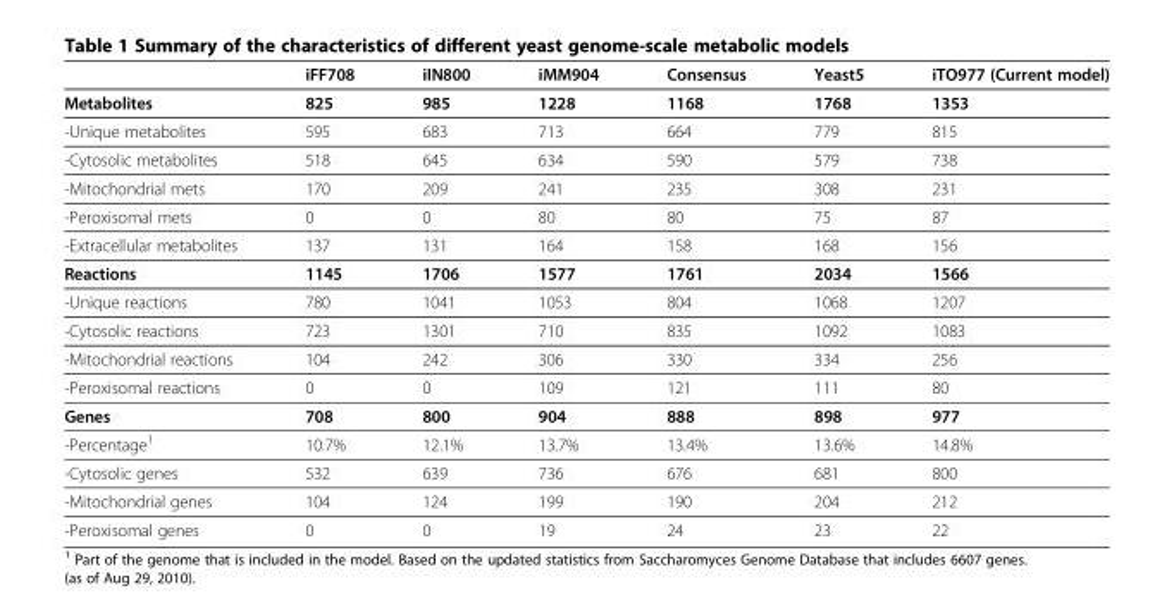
<table><thead><tr><td></td><td>iFF708</td><td>iIN800</td><td>iMM904</td><td>Consensus</td><td>Yeast5</td><td>iTO977 (Current model)</td></tr></thead><tbody><tr><td>Metabolites</td><td>825</td><td>985</td><td>1228</td><td>1168</td><td>1768</td><td>1353</td></tr><tr><td>-Unique metabolites</td><td>595</td><td>683</td><td>713</td><td>664</td><td>779</td><td>815</td></tr><tr><td>-Cytosolic metabolites</td><td>518</td><td>645</td><td>634</td><td>590</td><td>579</td><td>738</td></tr><tr><td>-Mitochondrial mets</td><td>170</td><td>209</td><td>241</td><td>235</td><td>308</td><td>231</td></tr><tr><td>-Peroxisomal mets</td><td>0</td><td>0</td><td>80</td><td>80</td><td>75</td><td>87</td></tr><tr><td>-Extracellular metabolites</td><td>137</td><td>131</td><td>164</td><td>158</td><td>168</td><td>156</td></tr><tr><td>Reactions</td><td>1145</td><td>1706</td><td>1577</td><td>1761</td><td>2034</td><td>1566</td></tr><tr><td>-Unique reactions</td><td>780</td><td>1041</td><td>1053</td><td>804</td><td>1068</td><td>1207</td></tr><tr><td>-Cytosolic reactions</td><td>723</td><td>1301</td><td>710</td><td>835</td><td>1092</td><td>1083</td></tr><tr><td>-Mitochondrial reactions</td><td>104</td><td>242</td><td>306</td><td>330</td><td>334</td><td>256</td></tr><tr><td>-Peroxisomal reactions</td><td>0</td><td>0</td><td>109</td><td>121</td><td>111</td><td>80</td></tr><tr><td>Genes</td><td>708</td><td>800</td><td>904</td><td>888</td><td>898</td><td>977</td></tr><tr><td>-Percentage<sup>1</sup></td><td>10.7%</td><td>12.1%</td><td>13.7%</td><td>13.4%</td><td>13.6%</td><td>14.8%</td></tr><tr><td>-Cytosolic genes</td><td>532</td><td>639</td><td>736</td><td>676</td><td>681</td><td>800</td></tr><tr><td>-Mitochondrial genes</td><td>104</td><td>124</td><td>199</td><td>190</td><td>204</td><td>212</td></tr><tr><td>-Peroxisomal genes</td><td>0</td><td>0</td><td>19</td><td>24</td><td>23</td><td>22</td></tr></tbody></table>